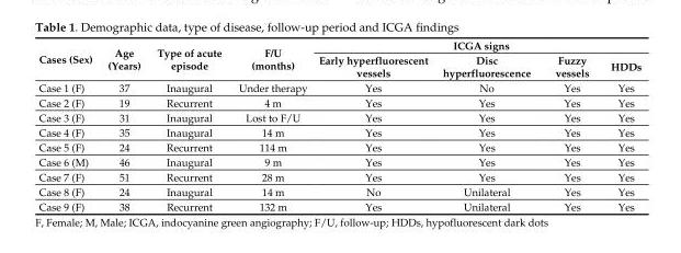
<table><thead><tr><td rowspan="2">Cases (Sex)</td><td rowspan="2">Age (Years)</td><td rowspan="2">Type of acute episode</td><td rowspan="2">F/U (months)</td><td colspan="4">ICGA signs</td></tr><tr><td>Early hyperfluorescent vessels</td><td>Disc hyperfluorescence</td><td>Fuzzy vessels</td><td>HDDs</td></tr></thead><tbody><tr><td>Case 1 (F)</td><td>37</td><td>Inaugural</td><td>Under therapy</td><td>Yes</td><td>No</td><td>Yes</td><td>Yes</td></tr><tr><td>Case 2 (F)</td><td>19</td><td>Recurrent</td><td>4 m</td><td>Yes</td><td>Yes</td><td>Yes</td><td>Yes</td></tr><tr><td>Case 3 (F)</td><td>31</td><td>Inaugural</td><td>Lost to F/U</td><td>Yes</td><td>Yes</td><td>Yes</td><td>Yes</td></tr><tr><td>Case 4 (F)</td><td>35</td><td>Inaugural</td><td>14 m</td><td>Yes</td><td>Yes</td><td>Yes</td><td>Yes</td></tr><tr><td>Case 5 (F)</td><td>24</td><td>Recurrent</td><td>114 m</td><td>Yes</td><td>Yes</td><td>Yes</td><td>Yes</td></tr><tr><td>Case 6 (M)</td><td>46</td><td>Inaugural</td><td>9 m</td><td>Yes</td><td>Yes</td><td>Yes</td><td>Yes</td></tr><tr><td>Case 7 (F)</td><td>51</td><td>Recurrent</td><td>28 m</td><td>Yes</td><td>Yes</td><td>Yes</td><td>Yes</td></tr><tr><td>Case 8 (F)</td><td>24</td><td>Inaugural</td><td>14 m</td><td>No</td><td>Unilateral</td><td>Yes</td><td>Yes</td></tr><tr><td>Case 9 (F)</td><td>38</td><td>Recurrent</td><td>132 m</td><td>Yes</td><td>Unilateral</td><td>Yes</td><td>Yes</td></tr></tbody></table>